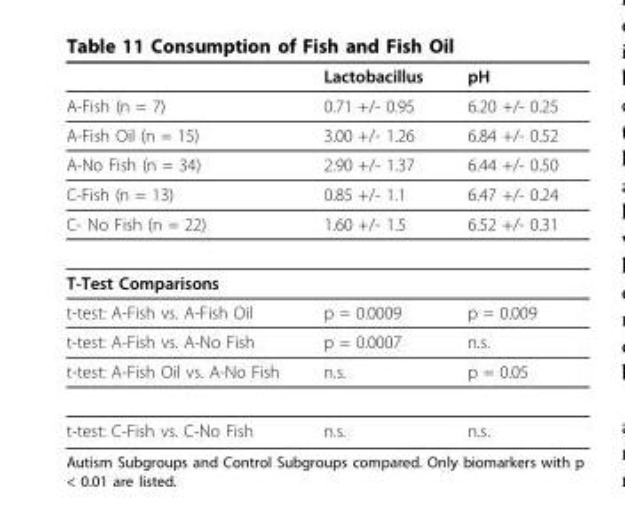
<table><thead><tr><td></td><td>Lactobacillus</td><td>pH</td></tr></thead><tbody><tr><td>A-Fish (n = 7)</td><td>0.71 +/- 0.95</td><td>6.20 +/- 0.25</td></tr><tr><td>A-Fish Oil (n = 15)</td><td>3.00 +/- 1.26</td><td>6.84 +/- 0.52</td></tr><tr><td>A-No Fish (n = 34)</td><td>2.90 +/- 1.37</td><td>6.44 +/- 0.50</td></tr><tr><td>C-Fish (n = 13)</td><td>0.85 +/- 1.1</td><td>6.47 +/- 0.24</td></tr><tr><td>C- No Fish (n = 22)</td><td>1.60 +/- 1.5</td><td>6.52 +/- 0.31</td></tr><tr><td colspan="3">T-Test Comparisons</td></tr><tr><td>t-test: A-Fish vs. A-Fish Oil</td><td>p = 0.0009</td><td>p = 0.009</td></tr><tr><td>t-test: A-Fish vs. A-No Fish</td><td>p = 0.0007</td><td>n.s.</td></tr><tr><td>t-test: A-Fish Oil vs. A-No Fish</td><td>n.s.</td><td>p = 0.05</td></tr><tr><td>t-test: C-Fish vs. C-No Fish</td><td>n.s.</td><td>n.s.</td></tr></tbody></table>